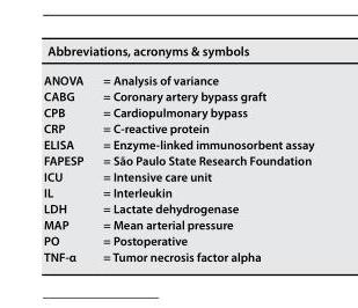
<table><thead><tr><td colspan="2">Abbreviations, acronyms &amp; symbols</td></tr><tr><td>ANOVA</td><td>= Analysis of variance</td></tr></thead><tbody><tr><td>CABG</td><td>= Coronary artery bypass graft</td></tr><tr><td>CPB</td><td>= Cardiopulmonary bypass</td></tr><tr><td>CRP</td><td>= C-reactive protein</td></tr><tr><td>ELISA</td><td>= Enzyme-linked immunosorbent assay</td></tr><tr><td>FAPESP</td><td>= São Paulo State Research Foundation</td></tr><tr><td>ICU</td><td>= Intensive care unit</td></tr><tr><td>IL</td><td>= Interleukin</td></tr><tr><td>LDH</td><td>= Lactate dehydrogenase</td></tr><tr><td>MAP</td><td>= Mean arterial pressure</td></tr><tr><td>PO</td><td>= Postoperative</td></tr><tr><td>TNF-α</td><td>= Tumor necrosis factor alpha</td></tr></tbody></table>